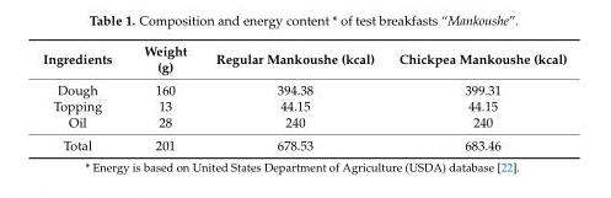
<table><thead><tr><td>Ingredients</td><td>Weight (g)</td><td>Regular Mankoushe (kcal)</td><td>Chickpea Mankoushe (kcal)</td></tr></thead><tbody><tr><td>Dough</td><td>160</td><td>394.38</td><td>399.31</td></tr><tr><td>Topping</td><td>13</td><td>44.15</td><td>44.15</td></tr><tr><td>Oil</td><td>28</td><td>240</td><td>240</td></tr><tr><td>Total</td><td>201</td><td>678.53</td><td>683.46</td></tr></tbody></table>